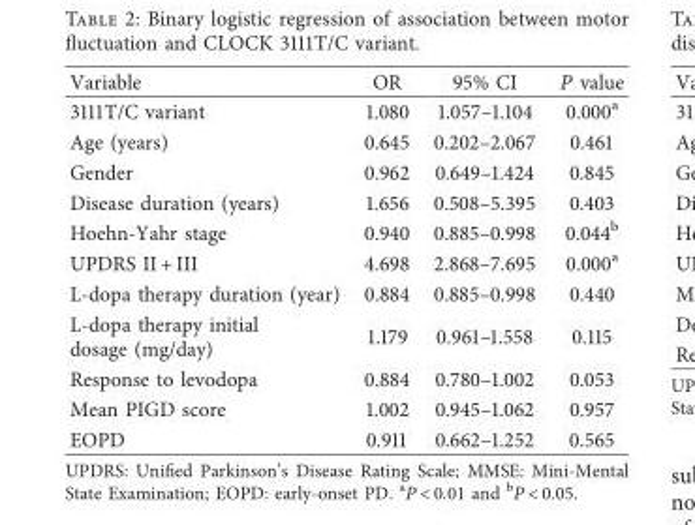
<table><thead><tr><td>Variable</td><td>OR</td><td>95% CI</td><td>P value</td></tr></thead><tbody><tr><td>3111T/C variant</td><td>1.080</td><td>1.057–1.104</td><td>0.000<sup>a</sup></td></tr><tr><td>Age (years)</td><td>0.645</td><td>0.202–2.067</td><td>0.461</td></tr><tr><td>Gender</td><td>0.962</td><td>0.649–1.424</td><td>0.845</td></tr><tr><td>Disease duration (years)</td><td>1.656</td><td>0.508–5.395</td><td>0.403</td></tr><tr><td>Hoehn-Yahr stage</td><td>0.940</td><td>0.885–0.998</td><td>0.044<sup>b</sup></td></tr><tr><td>UPDRS II + III</td><td>4.698</td><td>2.868–7.695</td><td>0.000<sup>a</sup></td></tr><tr><td>L-dopa therapy duration (year)</td><td>0.884</td><td>0.885–0.998</td><td>0.440</td></tr><tr><td>L-dopa therapy initial dosage (mg/day)</td><td>1.179</td><td>0.961–1.558</td><td>0.115</td></tr><tr><td>Response to levodopa</td><td>0.884</td><td>0.780–1.002</td><td>0.053</td></tr><tr><td>Mean PIGD score</td><td>1.002</td><td>0.945–1.062</td><td>0.957</td></tr><tr><td>EOPD</td><td>0.911</td><td>0.662–1.252</td><td>0.565</td></tr></tbody></table>